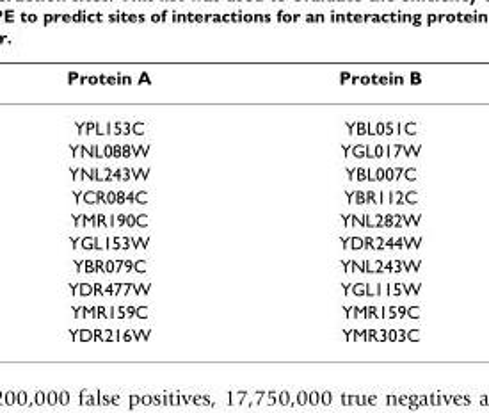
<table><thead><tr><td>Protein A</td><td>Protein B</td></tr></thead><tbody><tr><td>YPL153C</td><td>YBL051C</td></tr><tr><td>YNL088W</td><td>YGL017W</td></tr><tr><td>YNL243W</td><td>YBL007C</td></tr><tr><td>YCR084C</td><td>YBR112C</td></tr><tr><td>YMR190C</td><td>YNL282W</td></tr><tr><td>YGL153W</td><td>YDR244W</td></tr><tr><td>YBR079C</td><td>YNL243W</td></tr><tr><td>YDR477W</td><td>YGL115W</td></tr><tr><td>YMR159C</td><td>YMR159C</td></tr><tr><td>YDR216W</td><td>YMR303C</td></tr></tbody></table>